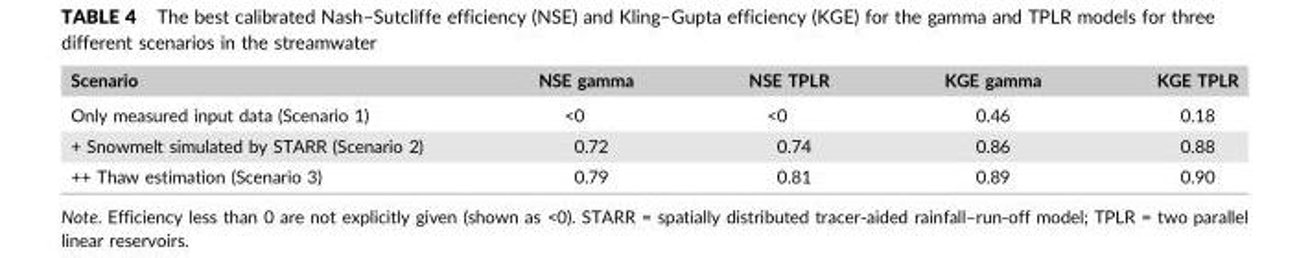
<table><thead><tr><td>Scenario</td><td>NSE gamma</td><td>NSE TPLR</td><td>KGE gamma</td><td>KGE TPLR</td></tr></thead><tbody><tr><td>Only measured input data (Scenario 1)</td><td>&lt;0</td><td>&lt;0</td><td>0.46</td><td>0.18</td></tr><tr><td>+ Snowmelt simulated by STARR (Scenario 2)</td><td>0.72</td><td>0.74</td><td>0.86</td><td>0.88</td></tr><tr><td>++ Thaw estimation (Scenario 3)</td><td>0.79</td><td>0.81</td><td>0.89</td><td>0.90</td></tr></tbody></table>